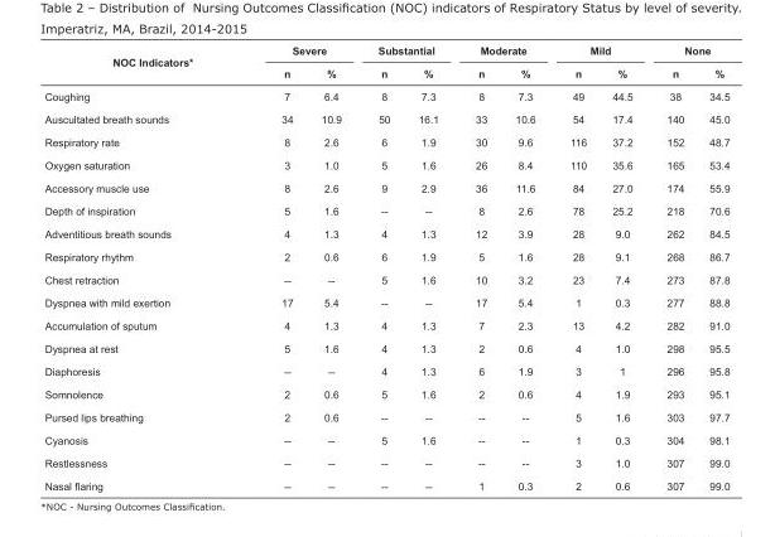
<table><tbody><tr><td rowspan="2">NOC Indicators*</td><td colspan="2">Severe</td><td colspan="2">Substantial</td><td colspan="2">Moderate</td><td colspan="2">Mild</td><td colspan="2">None</td></tr><tr><td>n</td><td>%</td><td>n</td><td>%</td><td>n</td><td>%</td><td>n</td><td>%</td><td>n</td><td>%</td></tr><tr><td>Coughing</td><td>7</td><td>6.4</td><td>8</td><td>7.3</td><td>8</td><td>7.3</td><td>49</td><td>44.5</td><td>38</td><td>34.5</td></tr><tr><td>Auscultated breath sounds</td><td>34</td><td>10.9</td><td>50</td><td>16.1</td><td>33</td><td>10.6</td><td>54</td><td>17.4</td><td>140</td><td>45.0</td></tr><tr><td>Respiratory rate</td><td>8</td><td>2.6</td><td>6</td><td>1.9</td><td>30</td><td>9.6</td><td>116</td><td>37.2</td><td>152</td><td>48.7</td></tr><tr><td>Oxygen saturation</td><td>3</td><td>1.0</td><td>5</td><td>1.6</td><td>26</td><td>8.4</td><td>110</td><td>35.6</td><td>165</td><td>53.4</td></tr><tr><td>Accessory muscle use</td><td>8</td><td>2.6</td><td>9</td><td>2.9</td><td>36</td><td>11.6</td><td>84</td><td>27.0</td><td>174</td><td>55.9</td></tr><tr><td>Depth of inspiration</td><td>5</td><td>1.6</td><td>--</td><td>--</td><td>8</td><td>2.6</td><td>78</td><td>25.2</td><td>218</td><td>70.6</td></tr><tr><td>Adventitious breath sounds</td><td>4</td><td>1.3</td><td>4</td><td>1.3</td><td>12</td><td>3.9</td><td>28</td><td>9.0</td><td>262</td><td>84.5</td></tr><tr><td>Respiratory rhythm</td><td>2</td><td>0.6</td><td>6</td><td>1.9</td><td>5</td><td>1.6</td><td>28</td><td>9.1</td><td>268</td><td>86.7</td></tr><tr><td>Chest retraction</td><td>--</td><td>--</td><td>5</td><td>1.6</td><td>10</td><td>3.2</td><td>23</td><td>7.4</td><td>273</td><td>87.8</td></tr><tr><td>Dyspnea with mild exertion</td><td>17</td><td>5.4</td><td>--</td><td>--</td><td>17</td><td>5.4</td><td>1</td><td>0.3</td><td>277</td><td>88.8</td></tr><tr><td>Accumulation of sputum</td><td>4</td><td>1.3</td><td>4</td><td>1.3</td><td>7</td><td>2.3</td><td>13</td><td>4.2</td><td>282</td><td>91.0</td></tr><tr><td>Dyspnea at rest</td><td>5</td><td>1.6</td><td>4</td><td>1.3</td><td>2</td><td>0.6</td><td>4</td><td>1.0</td><td>298</td><td>95.5</td></tr><tr><td>Diaphoresis</td><td>--</td><td>--</td><td>4</td><td>1.3</td><td>6</td><td>1.9</td><td>3</td><td>1</td><td>296</td><td>95.8</td></tr><tr><td>Somnolence</td><td>2</td><td>0.6</td><td>5</td><td>1.6</td><td>2</td><td>0.6</td><td>4</td><td>1.9</td><td>293</td><td>95.1</td></tr><tr><td>Pursed lips breathing</td><td>2</td><td>0.6</td><td>--</td><td>--</td><td>--</td><td>--</td><td>5</td><td>1.6</td><td>303</td><td>97.7</td></tr><tr><td>Cyanosis</td><td>--</td><td>--</td><td>5</td><td>1.6</td><td>--</td><td>--</td><td>1</td><td>0.3</td><td>304</td><td>98.1</td></tr><tr><td>Restlessness</td><td>--</td><td>--</td><td>--</td><td>--</td><td>--</td><td>--</td><td>3</td><td>1.0</td><td>307</td><td>99.0</td></tr><tr><td>Nasal flaring</td><td>--</td><td>--</td><td>--</td><td>--</td><td>1</td><td>0.3</td><td>2</td><td>0.6</td><td>307</td><td>99.0</td></tr></tbody></table>